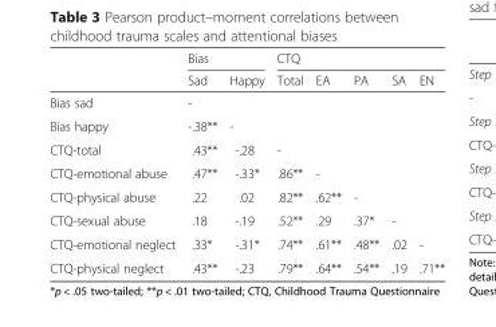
<table><thead><tr><td rowspan="2"></td><td colspan="2">Bias</td><td colspan="5">CTQ</td></tr><tr><td>Sad</td><td>Happy</td><td>Total</td><td>EA</td><td>PA</td><td>SA</td><td>EN</td></tr></thead><tbody><tr><td>Bias sad</td><td>-</td><td></td><td></td><td></td><td></td><td></td><td></td></tr><tr><td>Bias happy</td><td>-.38**</td><td>-</td><td></td><td></td><td></td><td></td><td></td></tr><tr><td>CTQ-total</td><td>.43**</td><td>-.28</td><td>-</td><td></td><td></td><td></td><td></td></tr><tr><td>CTQ-emotional abuse</td><td>.47**</td><td>-.33*</td><td>.86**</td><td>-</td><td></td><td></td><td></td></tr><tr><td>CTQ-physical abuse</td><td>.22</td><td>.02</td><td>.82**</td><td>.62**</td><td>-</td><td></td><td></td></tr><tr><td>CTQ-sexual abuse</td><td>.18</td><td>-.19</td><td>.52**</td><td>.29</td><td>.37*</td><td>-</td><td></td></tr><tr><td>CTQ-emotional neglect</td><td>.33*</td><td>-.31*</td><td>.74**</td><td>.61**</td><td>.48**</td><td>.02</td><td>-</td></tr><tr><td>CTQ-physical neglect</td><td>.43**</td><td>-.23</td><td>.79**</td><td>.64**</td><td>.54**</td><td>.19</td><td>.71**</td></tr></tbody></table>